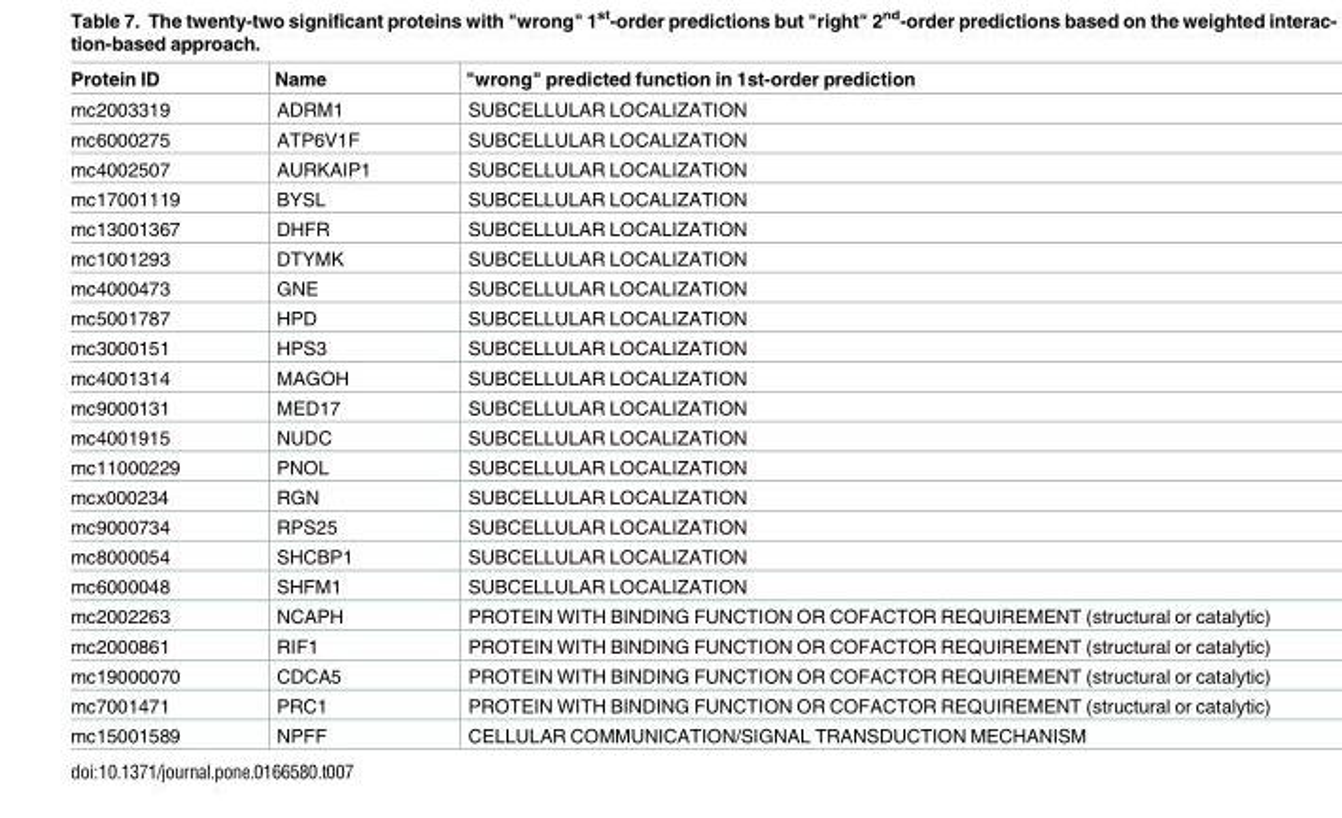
<table><thead><tr><td>Protein ID</td><td>Name</td><td>&quot;wrong&quot; predicted function in 1st-order prediction</td></tr></thead><tbody><tr><td>mc2003319</td><td>ADRM1</td><td>SUBCELLULAR LOCALIZATION</td></tr><tr><td>mc6000275</td><td>ATP6V1F</td><td>SUBCELLULAR LOCALIZATION</td></tr><tr><td>mc4002507</td><td>AURKAIP1</td><td>SUBCELLULAR LOCALIZATION</td></tr><tr><td>mc17001119</td><td>BYSL</td><td>SUBCELLULAR LOCALIZATION</td></tr><tr><td>mc13001367</td><td>DHFR</td><td>SUBCELLULAR LOCALIZATION</td></tr><tr><td>mc1001293</td><td>DTYMK</td><td>SUBCELLULAR LOCALIZATION</td></tr><tr><td>mc4000473</td><td>GNE</td><td>SUBCELLULAR LOCALIZATION</td></tr><tr><td>mc5001787</td><td>HPD</td><td>SUBCELLULAR LOCALIZATION</td></tr><tr><td>mc3000151</td><td>HPS3</td><td>SUBCELLULAR LOCALIZATION</td></tr><tr><td>mc4001314</td><td>MAGOH</td><td>SUBCELLULAR LOCALIZATION</td></tr><tr><td>mc9000131</td><td>MED17</td><td>SUBCELLULAR LOCALIZATION</td></tr><tr><td>mc4001915</td><td>NUDC</td><td>SUBCELLULAR LOCALIZATION</td></tr><tr><td>mc11000229</td><td>PNOL</td><td>SUBCELLULAR LOCALIZATION</td></tr><tr><td>mcx000234</td><td>RGN</td><td>SUBCELLULAR LOCALIZATION</td></tr><tr><td>mc9000734</td><td>RPS25</td><td>SUBCELLULAR LOCALIZATION</td></tr><tr><td>mc8000054</td><td>SHCBP1</td><td>SUBCELLULAR LOCALIZATION</td></tr><tr><td>mc6000048</td><td>SHFM1</td><td>SUBCELLULAR LOCALIZATION</td></tr><tr><td>mc2002263</td><td>NCAPH</td><td>PROTEIN WITH BINDING FUNCTION OR COFACTOR REQUIREMENT (structural or catalytic)</td></tr><tr><td>mc2000861</td><td>RIF1</td><td>PROTEIN WITH BINDING FUNCTION OR COFACTOR REQUIREMENT (structural or catalytic)</td></tr><tr><td>mc19000070</td><td>CDCA5</td><td>PROTEIN WITH BINDING FUNCTION OR COFACTOR REQUIREMENT (structural or catalytic)</td></tr><tr><td>mc7001471</td><td>PRC1</td><td>PROTEIN WITH BINDING FUNCTION OR COFACTOR REQUIREMENT (structural or catalytic)</td></tr><tr><td>mc15001589</td><td>NPFF</td><td>CELLULAR COMMUNICATION/SIGNAL TRANSDUCTION MECHANISM</td></tr></tbody></table>